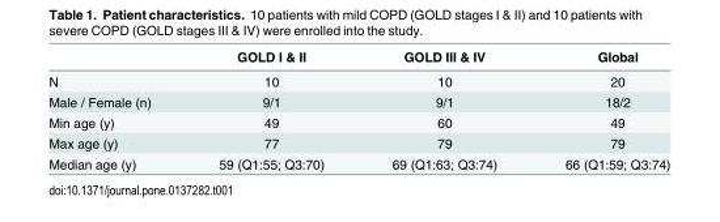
<table><thead><tr><td></td><td>GOLD I &amp; II</td><td>GOLD III &amp; IV</td><td>Global</td></tr></thead><tbody><tr><td>N</td><td>10</td><td>10</td><td>20</td></tr><tr><td>Male / Female (n)</td><td>9/1</td><td>9/1</td><td>18/2</td></tr><tr><td>Min age (y)</td><td>49</td><td>60</td><td>49</td></tr><tr><td>Max age (y)</td><td>77</td><td>79</td><td>79</td></tr><tr><td>Median age (y)</td><td>59 (Q1:55; Q3:70)</td><td>69 (Q1:63; Q3:74)</td><td>66 (Q1:59; Q3:74)</td></tr></tbody></table>